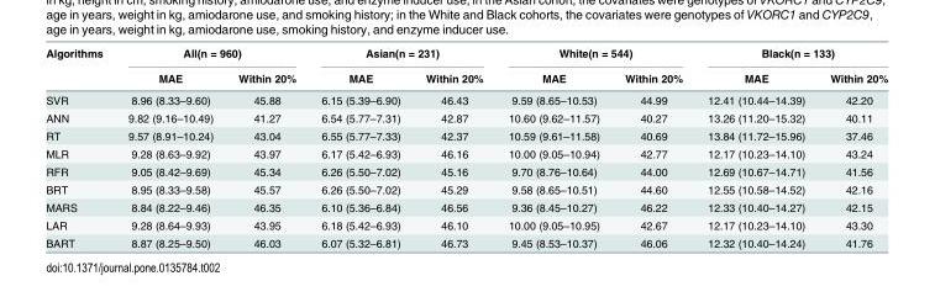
<table><thead><tr><td rowspan="2">Algorithms</td><td colspan="2">All(n = 960)</td><td colspan="2">Asian(n = 231)</td><td colspan="2">White(n = 544)</td><td colspan="2">Black(n = 133)</td></tr><tr><td>MAE</td><td>Within 20%</td><td>MAE</td><td>Within 20%</td><td>MAE</td><td>Within 20%</td><td>MAE</td><td>Within 20%</td></tr></thead><tbody><tr><td>SVR</td><td>8.96 (8.33–9.60)</td><td>45.88</td><td>6.15 (5.39–6.90)</td><td>46.43</td><td>9.59 (8.65–10.53)</td><td>44.99</td><td>12.41 (10.44–14.39)</td><td>42.20</td></tr><tr><td>ANN</td><td>9.82 (9.16–10.49)</td><td>41.27</td><td>6.54 (5.77–7.31)</td><td>42.87</td><td>10.60 (9.62–11.57)</td><td>40.27</td><td>13.26 (11.20–15.32)</td><td>40.11</td></tr><tr><td>RT</td><td>9.57 (8.91–10.24)</td><td>43.04</td><td>6.55 (5.77–7.33)</td><td>42.37</td><td>10.59 (9.61–11.58)</td><td>40.69</td><td>13.84 (11.72–15.96)</td><td>37.46</td></tr><tr><td>MLR</td><td>9.28 (8.63–9.92)</td><td>43.97</td><td>6.17 (5.42–6.93)</td><td>46.16</td><td>10.00 (9.05–10.94)</td><td>42.77</td><td>12.17 (10.23–14.10)</td><td>43.24</td></tr><tr><td>RFR</td><td>9.05 (8.42–9.69)</td><td>45.34</td><td>6.26 (5.50–7.02)</td><td>45.16</td><td>9.70 (8.76–10.64)</td><td>44.00</td><td>12.69 (10.67–14.71)</td><td>41.56</td></tr><tr><td>BRT</td><td>8.95 (8.33–9.58)</td><td>45.57</td><td>6.26 (5.50–7.02)</td><td>45.29</td><td>9.58 (8.65–10.51)</td><td>44.60</td><td>12.55 (10.58–14.52)</td><td>42.16</td></tr><tr><td>MARS</td><td>8.84 (8.22–9.46)</td><td>46.35</td><td>6.10 (5.36–6.84)</td><td>46.56</td><td>9.36 (8.45–10.27)</td><td>46.22</td><td>12.33 (10.40–14.27)</td><td>42.15</td></tr><tr><td>LAR</td><td>9.28 (8.64–9.93)</td><td>43.95</td><td>6.18 (5.42–6.93)</td><td>46.10</td><td>10.00 (9.05–10.95)</td><td>42.67</td><td>12.17 (10.23–14.10)</td><td>43.30</td></tr><tr><td>BART</td><td>8.87 (8.25–9.50)</td><td>46.03</td><td>6.07 (5.32–6.81)</td><td>46.73</td><td>9.45 (8.53–10.37)</td><td>46.06</td><td>12.32 (10.40–14.24)</td><td>41.76</td></tr></tbody></table>